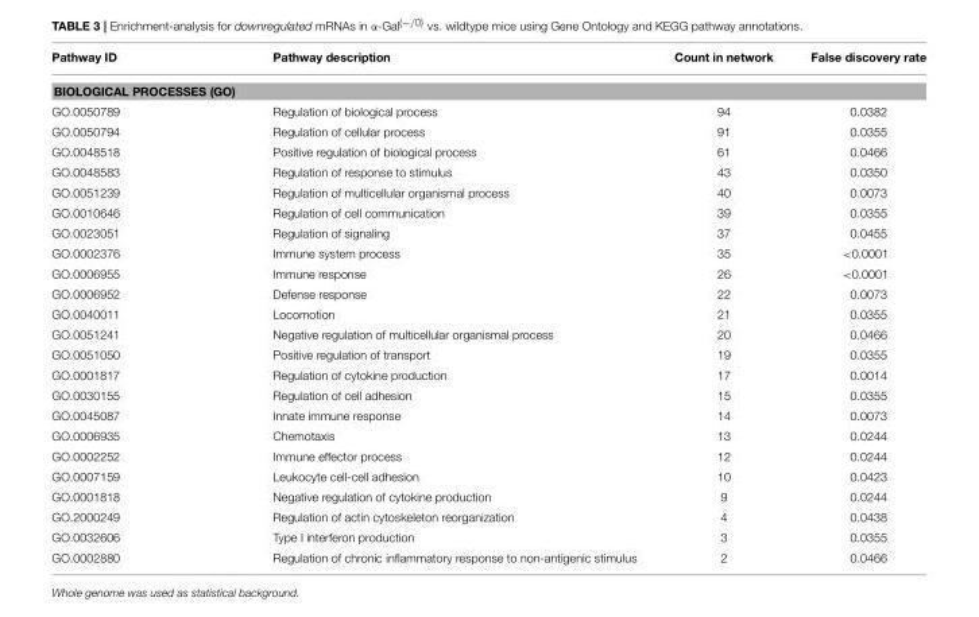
<table><thead><tr><td>Pathway ID</td><td>Pathway description</td><td>Count in network</td><td>False discovery rate</td></tr></thead><tbody><tr><td colspan="4">BIOLOGICAL PROCESSES (GO)</td></tr><tr><td>GO.0050789</td><td>Regulation of biological process</td><td>94</td><td>0.0382</td></tr><tr><td>GO.0050794</td><td>Regulation of cellular process</td><td>91</td><td>0.0355</td></tr><tr><td>GO.0048518</td><td>Positive regulation of biological process</td><td>61</td><td>0.0466</td></tr><tr><td>GO.0048583</td><td>Regulation of response to stimulus</td><td>43</td><td>0.0350</td></tr><tr><td>GO.0051239</td><td>Regulation of multicellular organismal process</td><td>40</td><td>0.0073</td></tr><tr><td>GO.0010646</td><td>Regulation of cell communication</td><td>39</td><td>0.0355</td></tr><tr><td>GO.0023051</td><td>Regulation of signaling</td><td>37</td><td>0.0455</td></tr><tr><td>GO.0002376</td><td>Immune system process</td><td>35</td><td>&lt;0.0001</td></tr><tr><td>GO.0006955</td><td>Immune response</td><td>26</td><td>&lt;0.0001</td></tr><tr><td>GO.0006952</td><td>Defense response</td><td>22</td><td>0.0073</td></tr><tr><td>GO.0040011</td><td>Locomotion</td><td>21</td><td>0.0355</td></tr><tr><td>GO.0051241</td><td>Negative regulation of multicellular organismal process</td><td>20</td><td>0.0466</td></tr><tr><td>GO.0051050</td><td>Positive regulation of transport</td><td>19</td><td>0.0355</td></tr><tr><td>GO.0001817</td><td>Regulation of cytokine production</td><td>17</td><td>0.0014</td></tr><tr><td>GO.0030155</td><td>Regulation of cell adhesion</td><td>15</td><td>0.0355</td></tr><tr><td>GO.0045087</td><td>Innate immune response</td><td>14</td><td>0.0073</td></tr><tr><td>GO.0006935</td><td>Chemotaxis</td><td>13</td><td>0.0244</td></tr><tr><td>GO.0002252</td><td>Immune effector process</td><td>12</td><td>0.0244</td></tr><tr><td>GO.0007159</td><td>Leukocyte cell-cell adhesion</td><td>10</td><td>0.0423</td></tr><tr><td>GO.0001818</td><td>Negative regulation of cytokine production</td><td>9</td><td>0.0244</td></tr><tr><td>GO.2000249</td><td>Regulation of actin cytoskeleton reorganization</td><td>4</td><td>0.0438</td></tr><tr><td>GO.0032606</td><td>Type I interferon production</td><td>3</td><td>0.0355</td></tr><tr><td>GO.0002880</td><td>Regulation of chronic inflammatory response to non-antigenic stimulus</td><td>2</td><td>0.0466</td></tr></tbody></table>